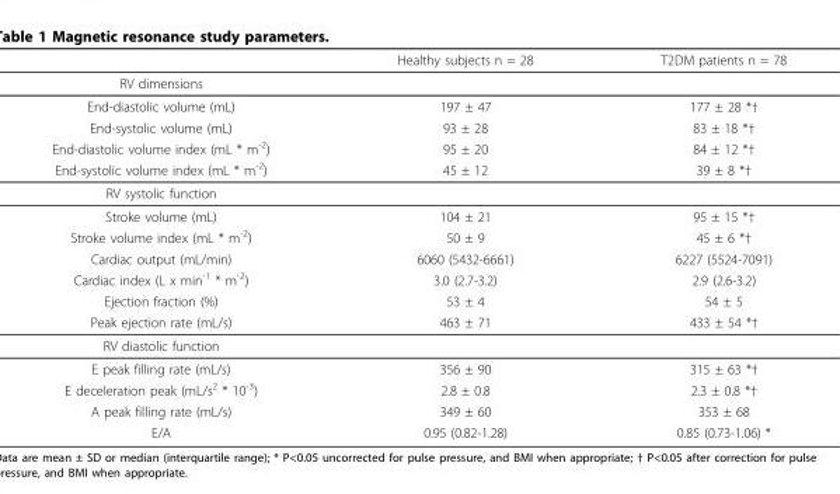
<table><thead><tr><td></td><td>Healthy subjects n = 28</td><td>T2DM patients n = 78</td></tr></thead><tbody><tr><td colspan="3">RV dimensions</td></tr><tr><td>End-diastolic volume (mL)</td><td>197 ± 47</td><td>177 ± 28 *†</td></tr><tr><td>End-systolic volume (mL)</td><td>93 ± 28</td><td>83 ± 18 *†</td></tr><tr><td>End-diastolic volume index (mL * m<sup>-2</sup>)</td><td>95 ± 20</td><td>84 ± 12 *†</td></tr><tr><td>End-systolic volume index (mL * m<sup>-2</sup>)</td><td>45 ± 12</td><td>39 ± 8 *†</td></tr><tr><td colspan="3">RV systolic function</td></tr><tr><td>Stroke volume (mL)</td><td>104 ± 21</td><td>95 ± 15 *†</td></tr><tr><td>Stroke volume index (mL * m<sup>-2</sup>)</td><td>50 ± 9</td><td>45 ± 6 *†</td></tr><tr><td>Cardiac output (mL/min)</td><td>6060 (5432-6661)</td><td>6227 (5524-7091)</td></tr><tr><td>Cardiac index (L x min<sup>-1</sup> * m<sup>-2</sup>)</td><td>3.0 (2.7-3.2)</td><td>2.9 (2.6-3.2)</td></tr><tr><td>Ejection fraction (%)</td><td>53 ± 4</td><td>54 ± 5</td></tr><tr><td>Peak ejection rate (mL/s)</td><td>463 ± 71</td><td>433 ± 54 *†</td></tr><tr><td colspan="3">RV diastolic function</td></tr><tr><td>E peak filling rate (mL/s)</td><td>356 ± 90</td><td>315 ± 63 *†</td></tr><tr><td>E deceleration peak (mL/s<sup>2</sup> * 10<sup>-3</sup>)</td><td>2.8 ± 0.8</td><td>2.3 ± 0.8 *†</td></tr><tr><td>A peak filling rate (mL/s)</td><td>349 ± 60</td><td>353 ± 68</td></tr><tr><td>E/A</td><td>0.95 (0.82-1.28)</td><td>0.85 (0.73-1.06) *</td></tr></tbody></table>